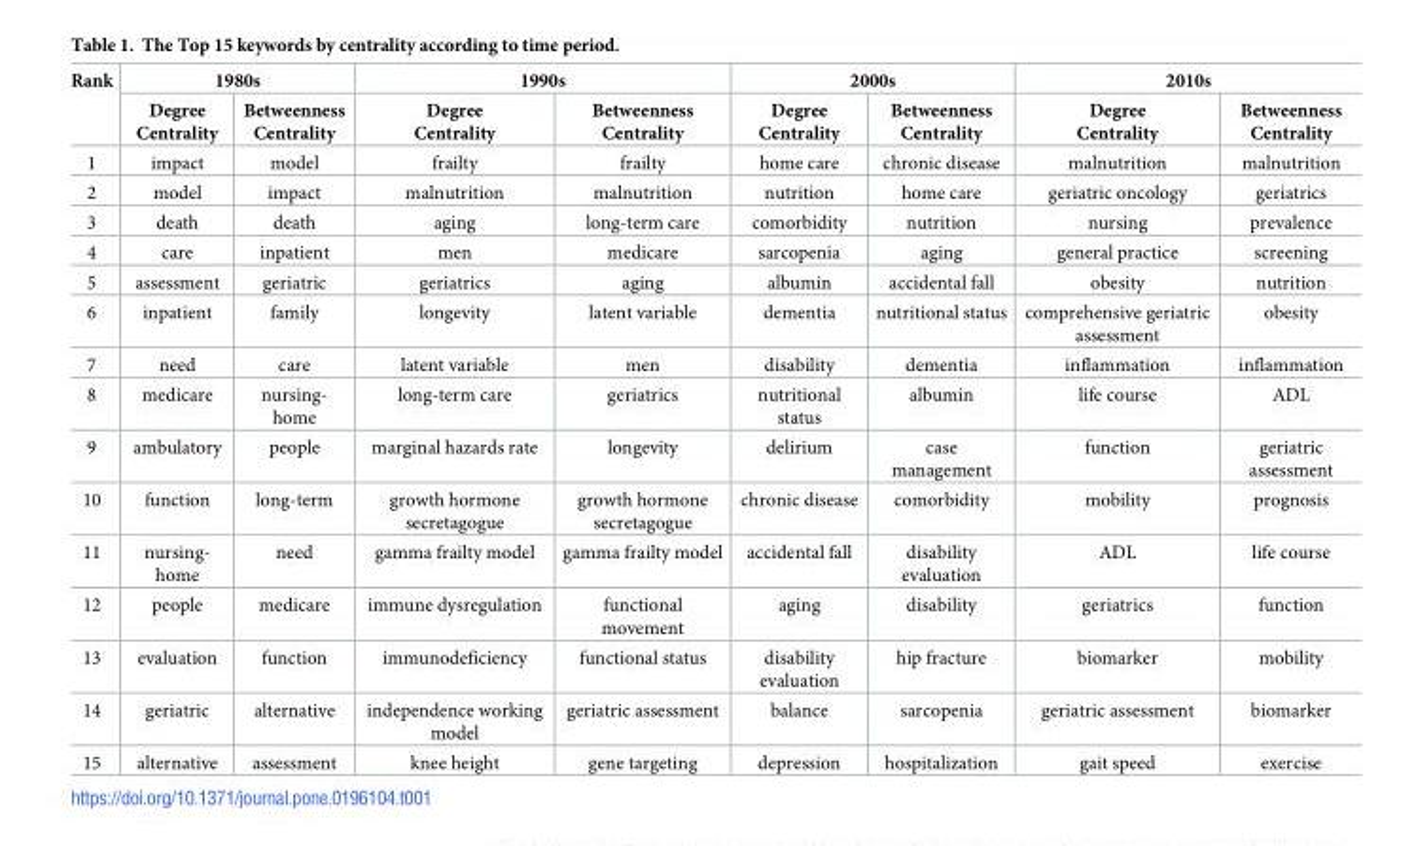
<table><thead><tr><td rowspan="2">Rank</td><td colspan="2">1980s</td><td colspan="2">1990s</td><td colspan="2">2000s</td><td colspan="2">2010s</td></tr><tr><td>Degree Centrality</td><td>Betweenness Centrality</td><td>Degree Centrality</td><td>Betweenness Centrality</td><td>Degree Centrality</td><td>Betweenness Centrality</td><td>Degree Centrality</td><td>Betweenness Centrality</td></tr></thead><tbody><tr><td>1</td><td>impact</td><td>model</td><td>frailty</td><td>frailty</td><td>home care</td><td>chronic disease</td><td>malnutrition</td><td>malnutrition</td></tr><tr><td>2</td><td>model</td><td>impact</td><td>malnutrition</td><td>malnutrition</td><td>nutrition</td><td>home care</td><td>geriatric oncology</td><td>geriatrics</td></tr><tr><td>3</td><td>death</td><td>death</td><td>aging</td><td>long-term care</td><td>comorbidity</td><td>nutrition</td><td>nursing</td><td>prevalence</td></tr><tr><td>4</td><td>care</td><td>inpatient</td><td>men</td><td>medicare</td><td>sarcopenia</td><td>aging</td><td>general practice</td><td>screening</td></tr><tr><td>5</td><td>assessment</td><td>geriatric</td><td>geriatrics</td><td>aging</td><td>albumin</td><td>accidental fall</td><td>obesity</td><td>nutrition</td></tr><tr><td>6</td><td>inpatient</td><td>family</td><td>longevity</td><td>latent variable</td><td>dementia</td><td>nutritional status</td><td>comprehensive geriatric assessment</td><td>obesity</td></tr><tr><td>7</td><td>need</td><td>care</td><td>latent variable</td><td>men</td><td>disability</td><td>dementia</td><td>inflammation</td><td>inflammation</td></tr><tr><td>8</td><td>medicare</td><td>nursing- home</td><td>long-term care</td><td>geriatrics</td><td>nutritional status</td><td>albumin</td><td>life course</td><td>ADL</td></tr><tr><td>9</td><td>ambulatory</td><td>people</td><td>marginal hazards rate</td><td>longevity</td><td>delirium</td><td>case management</td><td>function</td><td>geriatric assessment</td></tr><tr><td>10</td><td>function</td><td>long-term</td><td>growth hormone secretagogue</td><td>growth hormone secretagogue</td><td>chronic disease</td><td>comorbidity</td><td>mobility</td><td>prognosis</td></tr><tr><td>11</td><td>nursing- home</td><td>need</td><td>gamma frailty model</td><td>gamma frailty model</td><td>accidental fall</td><td>disability evaluation</td><td>ADL</td><td>life course</td></tr><tr><td>12</td><td>people</td><td>medicare</td><td>immune dysregulation</td><td>functional movement</td><td>aging</td><td>disability</td><td>geriatrics</td><td>function</td></tr><tr><td>13</td><td>evaluation</td><td>function</td><td>immunodeficiency</td><td>functional status</td><td>disability evaluation</td><td>hip fracture</td><td>biomarker</td><td>mobility</td></tr><tr><td>14</td><td>geriatric</td><td>alternative</td><td>independence working model</td><td>geriatric assessment</td><td>balance</td><td>sarcopenia</td><td>geriatric assessment</td><td>biomarker</td></tr><tr><td>15</td><td>alternative</td><td>assessment</td><td>knee height</td><td>gene targeting</td><td>depression</td><td>hospitalization</td><td>gait speed</td><td>exercise</td></tr></tbody></table>